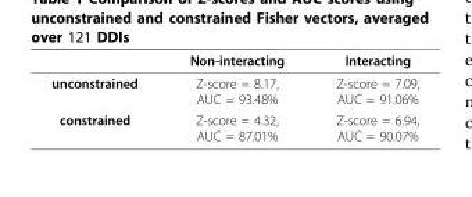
<table><thead><tr><td></td><td>Non-interacting</td><td>Interacting</td></tr></thead><tbody><tr><td>unconstrained</td><td>Z-score = 8.17, AUC = 93.48%</td><td>Z-score = 7.09, AUC = 91.06%</td></tr><tr><td>constrained</td><td>Z-score = 4.32, AUC = 87.01%</td><td>Z-score = 6.94, AUC = 90.07%</td></tr></tbody></table>